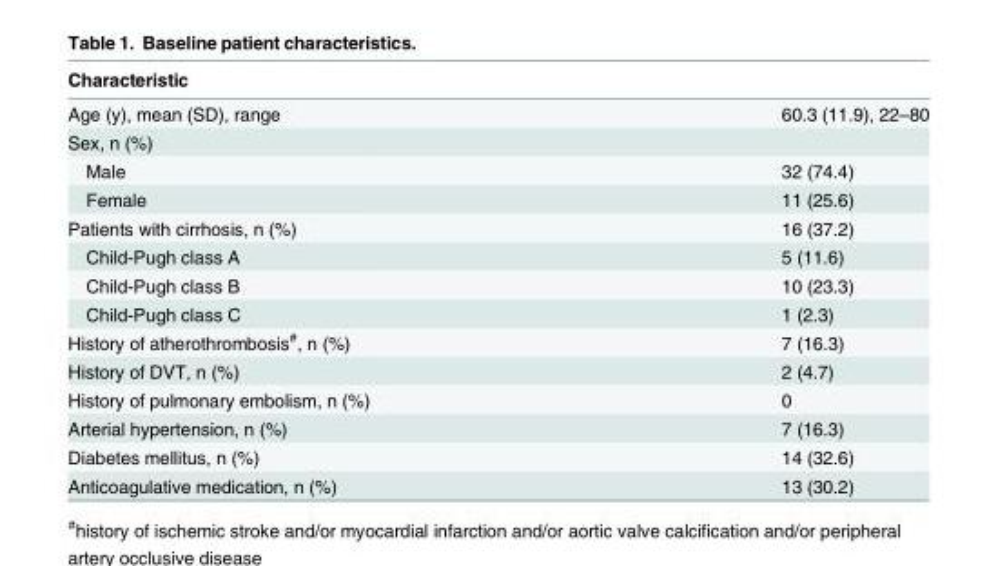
<table><thead><tr><td>Characteristic</td><td></td></tr></thead><tbody><tr><td>Age (y), mean (SD), range</td><td>60.3 (11.9), 22–80</td></tr><tr><td colspan="2">Sex, n (%)</td></tr><tr><td>Male</td><td>32 (74.4)</td></tr><tr><td>Female</td><td>11 (25.6)</td></tr><tr><td>Patients with cirrhosis, n (%)</td><td>16 (37.2)</td></tr><tr><td>Child-Pugh class A</td><td>5 (11.6)</td></tr><tr><td>Child-Pugh class B</td><td>10 (23.3)</td></tr><tr><td>Child-Pugh class C</td><td>1 (2.3)</td></tr><tr><td>History of atherothrombosis<sup>#</sup>, n (%)</td><td>7 (16.3)</td></tr><tr><td>History of DVT, n (%)</td><td>2 (4.7)</td></tr><tr><td>History of pulmonary embolism, n (%)</td><td>0</td></tr><tr><td>Arterial hypertension, n (%)</td><td>7 (16.3)</td></tr><tr><td>Diabetes mellitus, n (%)</td><td>14 (32.6)</td></tr><tr><td>Anticoagulative medication, n (%)</td><td>13 (30.2)</td></tr></tbody></table>